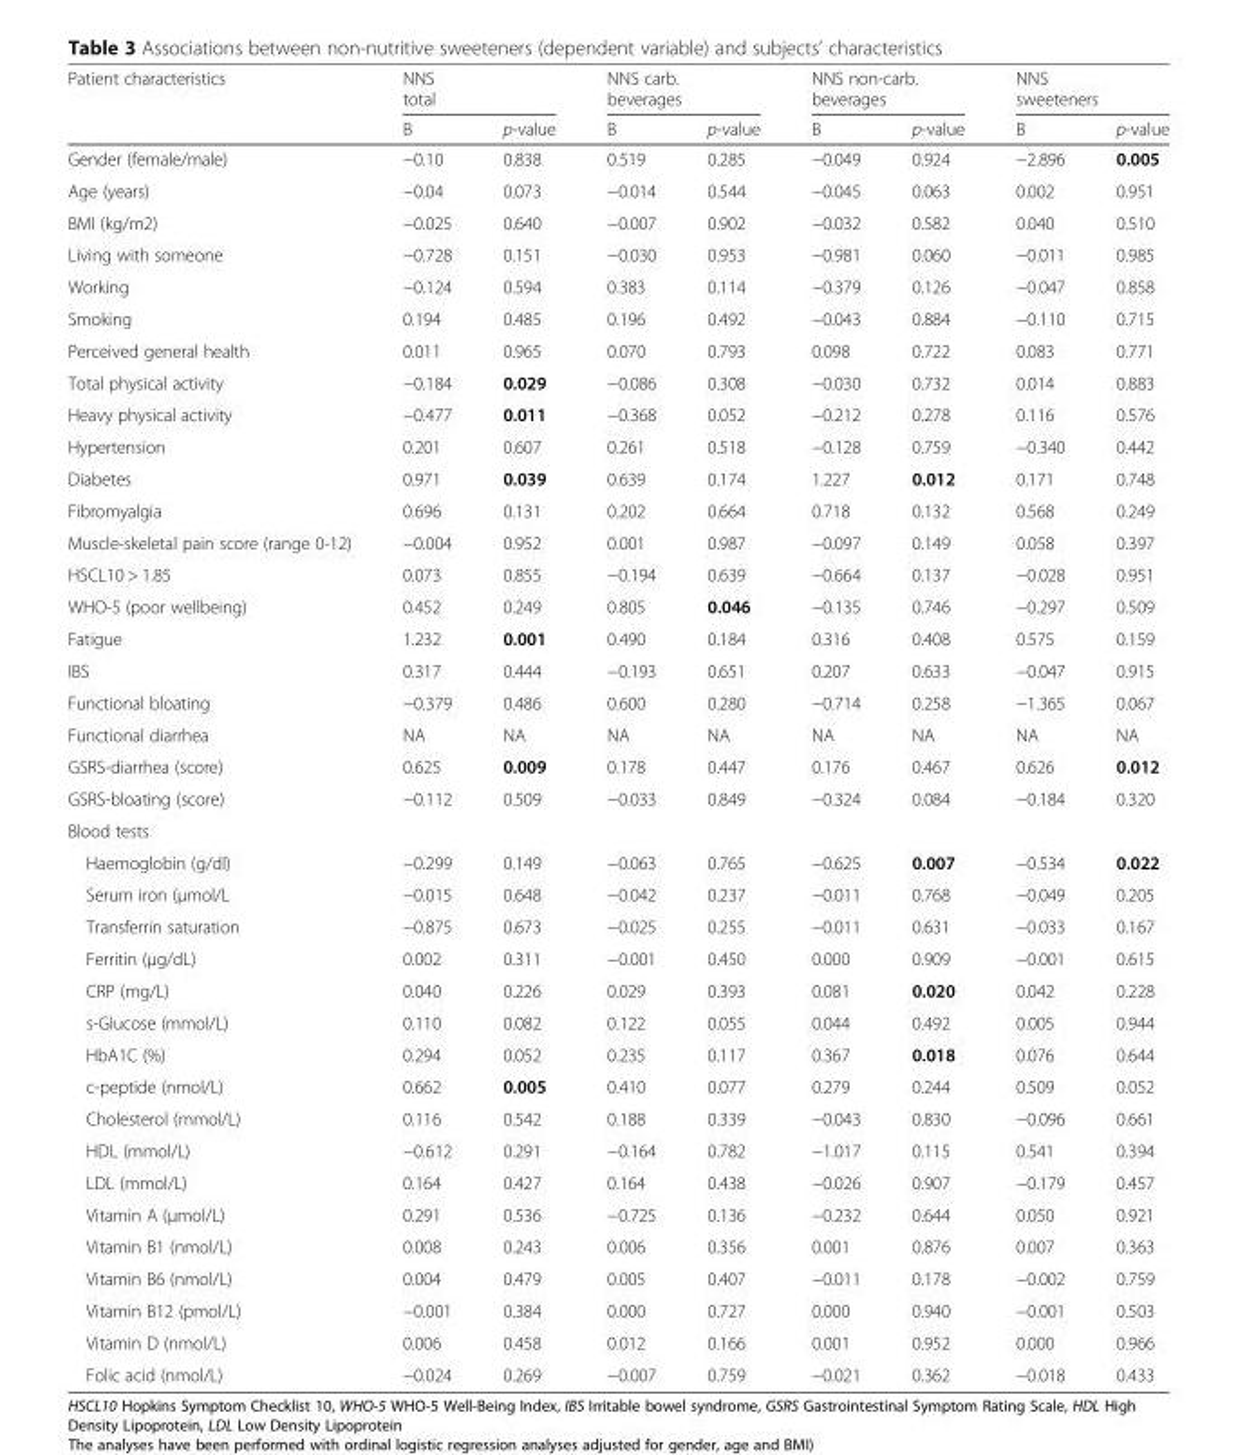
<table><thead><tr><td rowspan="2">Patient characteristics</td><td colspan="2">NNS total</td><td colspan="2">NNS carb. beverages</td><td colspan="2">NNS non-carb. beverages</td><td colspan="2">NNS sweeteners</td></tr><tr><td>B</td><td>p-value</td><td>B</td><td>p-value</td><td>B</td><td>p-value</td><td>B</td><td>p-value</td></tr></thead><tbody><tr><td>Gender (female/male)</td><td>−0.10</td><td>0.838</td><td>0.519</td><td>0.285</td><td>−0.049</td><td>0.924</td><td>−2.896</td><td>0.005</td></tr><tr><td>Age (years)</td><td>−0.04</td><td>0.073</td><td>−0.014</td><td>0.544</td><td>−0.045</td><td>0.063</td><td>0.002</td><td>0.951</td></tr><tr><td>BMI (kg/m2)</td><td>−0.025</td><td>0.640</td><td>−0.007</td><td>0.902</td><td>−0.032</td><td>0.582</td><td>0.040</td><td>0.510</td></tr><tr><td>Living with someone</td><td>−0.728</td><td>0.151</td><td>−0.030</td><td>0.953</td><td>−0.981</td><td>0.060</td><td>−0.011</td><td>0.985</td></tr><tr><td>Working</td><td>−0.124</td><td>0.594</td><td>0.383</td><td>0.114</td><td>−0.379</td><td>0.126</td><td>−0.047</td><td>0.858</td></tr><tr><td>Smoking</td><td>0.194</td><td>0.485</td><td>0.196</td><td>0.492</td><td>−0.043</td><td>0.884</td><td>−0.110</td><td>0.715</td></tr><tr><td>Perceived general health</td><td>0.011</td><td>0.965</td><td>0.070</td><td>0.793</td><td>0.098</td><td>0.722</td><td>0.083</td><td>0.771</td></tr><tr><td>Total physical activity</td><td>−0.184</td><td>0.029</td><td>−0.086</td><td>0.308</td><td>−0.030</td><td>0.732</td><td>0.014</td><td>0.883</td></tr><tr><td>Heavy physical activity</td><td>−0.477</td><td>0.011</td><td>−0.368</td><td>0.052</td><td>−0.212</td><td>0.278</td><td>0.116</td><td>0.576</td></tr><tr><td>Hypertension</td><td>0.201</td><td>0.607</td><td>0.261</td><td>0.518</td><td>−0.128</td><td>0.759</td><td>−0.340</td><td>0.442</td></tr><tr><td>Diabetes</td><td>0.971</td><td>0.039</td><td>0.639</td><td>0.174</td><td>1.227</td><td>0.012</td><td>0.171</td><td>0.748</td></tr><tr><td>Fibromyalgia</td><td>0.696</td><td>0.131</td><td>0.202</td><td>0.664</td><td>0.718</td><td>0.132</td><td>0.568</td><td>0.249</td></tr><tr><td>Muscle-skeletal pain score (range 0-12)</td><td>−0.004</td><td>0.952</td><td>0.001</td><td>0.987</td><td>−0.097</td><td>0.149</td><td>0.058</td><td>0.397</td></tr><tr><td>HSCL10 &gt; 1.85</td><td>0.073</td><td>0.855</td><td>−0.194</td><td>0.639</td><td>−0.664</td><td>0.137</td><td>−0.028</td><td>0.951</td></tr><tr><td>WHO-5 (poor wellbeing)</td><td>0.452</td><td>0.249</td><td>0.805</td><td>0.046</td><td>−0.135</td><td>0.746</td><td>−0.297</td><td>0.509</td></tr><tr><td>Fatigue</td><td>1.232</td><td>0.001</td><td>0.490</td><td>0.184</td><td>0.316</td><td>0.408</td><td>0.575</td><td>0.159</td></tr><tr><td>IBS</td><td>0.317</td><td>0.444</td><td>−0.193</td><td>0.651</td><td>0.207</td><td>0.633</td><td>−0.047</td><td>0.915</td></tr><tr><td>Functional bloating</td><td>−0.379</td><td>0.486</td><td>0.600</td><td>0.280</td><td>−0.714</td><td>0.258</td><td>−1.365</td><td>0.067</td></tr><tr><td>Functional diarrhea</td><td>NA</td><td>NA</td><td>NA</td><td>NA</td><td>NA</td><td>NA</td><td>NA</td><td>NA</td></tr><tr><td>GSRS-diarrhea (score)</td><td>0.625</td><td>0.009</td><td>0.178</td><td>0.447</td><td>0.176</td><td>0.467</td><td>0.626</td><td>0.012</td></tr><tr><td>GSRS-bloating (score)</td><td>−0.112</td><td>0.509</td><td>−0.033</td><td>0.849</td><td>−0.324</td><td>0.084</td><td>−0.184</td><td>0.320</td></tr><tr><td colspan="9">Blood tests</td></tr><tr><td>Haemoglobin (g/dl)</td><td>−0.299</td><td>0.149</td><td>−0.063</td><td>0.765</td><td>−0.625</td><td>0.007</td><td>−0.534</td><td>0.022</td></tr><tr><td>Serum iron (μmol/L</td><td>−0.015</td><td>0.648</td><td>−0.042</td><td>0.237</td><td>−0.011</td><td>0.768</td><td>−0.049</td><td>0.205</td></tr><tr><td>Transferrin saturation</td><td>−0.875</td><td>0.673</td><td>−0.025</td><td>0.255</td><td>−0.011</td><td>0.631</td><td>−0.033</td><td>0.167</td></tr><tr><td>Ferritin (μg/dL)</td><td>0.002</td><td>0.311</td><td>−0.001</td><td>0.450</td><td>0.000</td><td>0.909</td><td>−0.001</td><td>0.615</td></tr><tr><td>CRP (mg/L)</td><td>0.040</td><td>0.226</td><td>0.029</td><td>0.393</td><td>0.081</td><td>0.020</td><td>0.042</td><td>0.228</td></tr><tr><td>s-Glucose (mmol/L)</td><td>0.110</td><td>0.082</td><td>0.122</td><td>0.055</td><td>0.044</td><td>0.492</td><td>0.005</td><td>0.944</td></tr><tr><td>HbA1C (%)</td><td>0.294</td><td>0.052</td><td>0.235</td><td>0.117</td><td>0.367</td><td>0.018</td><td>0.076</td><td>0.644</td></tr><tr><td>c-peptide (nmol/L)</td><td>0.662</td><td>0.005</td><td>0.410</td><td>0.077</td><td>0.279</td><td>0.244</td><td>0.509</td><td>0.052</td></tr><tr><td>Cholesterol (mmol/L)</td><td>0.116</td><td>0.542</td><td>0.188</td><td>0.339</td><td>−0.043</td><td>0.830</td><td>−0.096</td><td>0.661</td></tr><tr><td>HDL (mmol/L)</td><td>−0.612</td><td>0.291</td><td>−0.164</td><td>0.782</td><td>−1.017</td><td>0.115</td><td>0.541</td><td>0.394</td></tr><tr><td>LDL (mmol/L)</td><td>0.164</td><td>0.427</td><td>0.164</td><td>0.438</td><td>−0.026</td><td>0.907</td><td>−0.179</td><td>0.457</td></tr><tr><td>Vitamin A (μmol/L)</td><td>0.291</td><td>0.536</td><td>−0.725</td><td>0.136</td><td>−0.232</td><td>0.644</td><td>0.050</td><td>0.921</td></tr><tr><td>Vitamin B1 (nmol/L)</td><td>0.008</td><td>0.243</td><td>0.006</td><td>0.356</td><td>0.001</td><td>0.876</td><td>0.007</td><td>0.363</td></tr><tr><td>Vitamin B6 (nmol/L)</td><td>0.004</td><td>0.479</td><td>0.005</td><td>0.407</td><td>−0.011</td><td>0.178</td><td>−0.002</td><td>0.759</td></tr><tr><td>Vitamin B12 (pmol/L)</td><td>−0.001</td><td>0.384</td><td>0.000</td><td>0.727</td><td>0.000</td><td>0.940</td><td>−0.001</td><td>0.503</td></tr><tr><td>Vitamin D (nmol/L)</td><td>0.006</td><td>0.458</td><td>0.012</td><td>0.166</td><td>0.001</td><td>0.952</td><td>0.000</td><td>0.966</td></tr><tr><td>Folic acid (nmol/L)</td><td>−0.024</td><td>0.269</td><td>−0.007</td><td>0.759</td><td>−0.021</td><td>0.362</td><td>−0.018</td><td>0.433</td></tr></tbody></table>